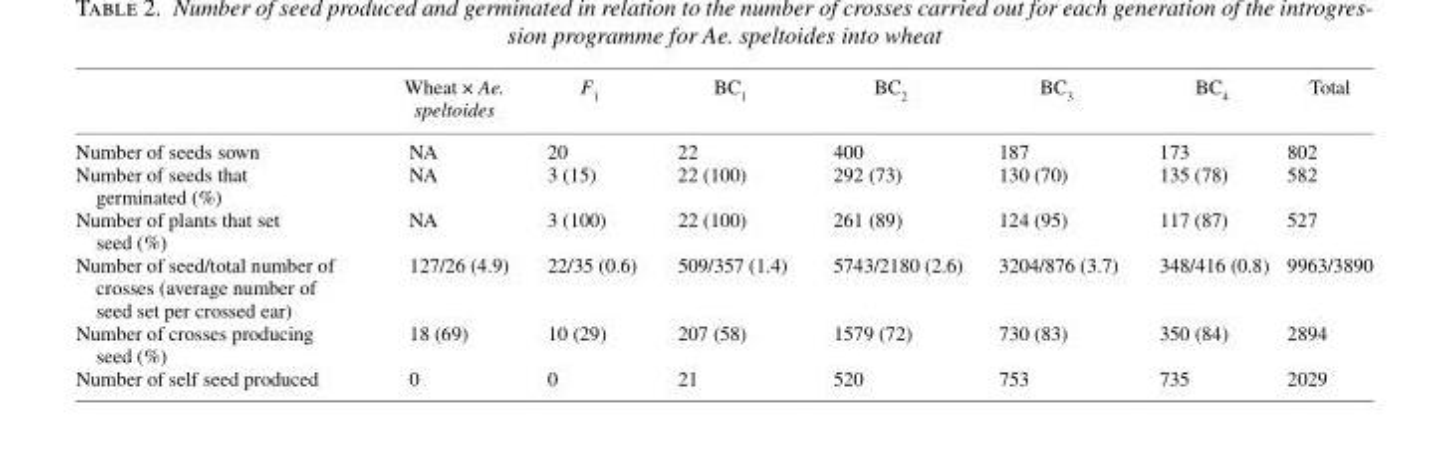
<table><thead><tr><td></td><td>Wheat × Ae. speltoides</td><td>F<sub>1</sub></td><td>BC<sub>1</sub></td><td>BC<sub>2</sub></td><td>BC<sub>3</sub></td><td>BC<sub>4</sub></td><td>Total</td></tr></thead><tbody><tr><td>Number of seeds sown</td><td>NA</td><td>20</td><td>22</td><td>400</td><td>187</td><td>173</td><td>802</td></tr><tr><td>Number of seeds that germinated (%)</td><td>NA</td><td>3 (15)</td><td>22 (100)</td><td>292 (73)</td><td>130 (70)</td><td>135 (78)</td><td>582</td></tr><tr><td>Number of plants that set seed (%)</td><td>NA</td><td>3 (100)</td><td>22 (100)</td><td>261 (89)</td><td>124 (95)</td><td>117 (87)</td><td>527</td></tr><tr><td>Number of seed/total number of crosses (average number of seed set per crossed ear)</td><td>127/26 (4.9)</td><td>22/35 (0.6)</td><td>509/357 (1.4)</td><td>5743/2180 (2.6)</td><td>3204/876 (3.7)</td><td>348/416 (0.8)</td><td>9963/3890</td></tr><tr><td>Number of crosses producing seed (%)</td><td>18 (69)</td><td>10 (29)</td><td>207 (58)</td><td>1579 (72)</td><td>730 (83)</td><td>350 (84)</td><td>2894</td></tr><tr><td>Number of self seed produced</td><td>0</td><td>0</td><td>21</td><td>520</td><td>753</td><td>735</td><td>2029</td></tr></tbody></table>